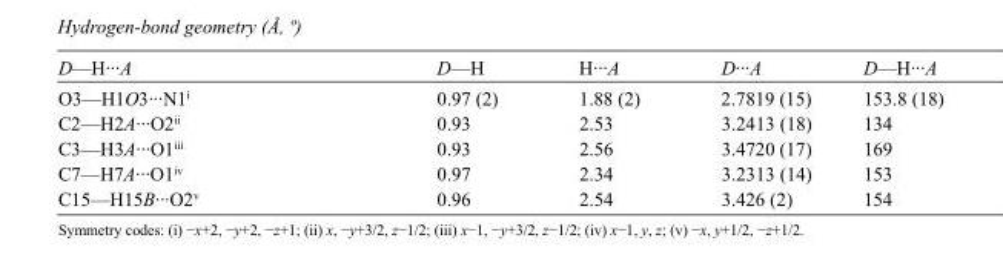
<table><tbody><tr><td>D—H···A</td><td>D—H</td><td>H···A</td><td>D···A</td><td>D—H···A</td></tr><tr><td>O3—H1O3···N1<sup>i</sup></td><td>0.97 (2)</td><td>1.88 (2)</td><td>2.7819 (15)</td><td>153.8 (18)</td></tr><tr><td>C2—H2A···O2<sup>ii</sup></td><td>0.93</td><td>2.53</td><td>3.2413 (18)</td><td>134</td></tr><tr><td>C3—H3A···O1<sup>iii</sup></td><td>0.93</td><td>2.56</td><td>3.4720 (17)</td><td>169</td></tr><tr><td>C7—H7A···O1<sup>iv</sup></td><td>0.97</td><td>2.34</td><td>3.2313 (14)</td><td>153</td></tr><tr><td>C15—H15B···O2<sup>v</sup></td><td>0.96</td><td>2.54</td><td>3.426 (2)</td><td>154</td></tr></tbody></table>